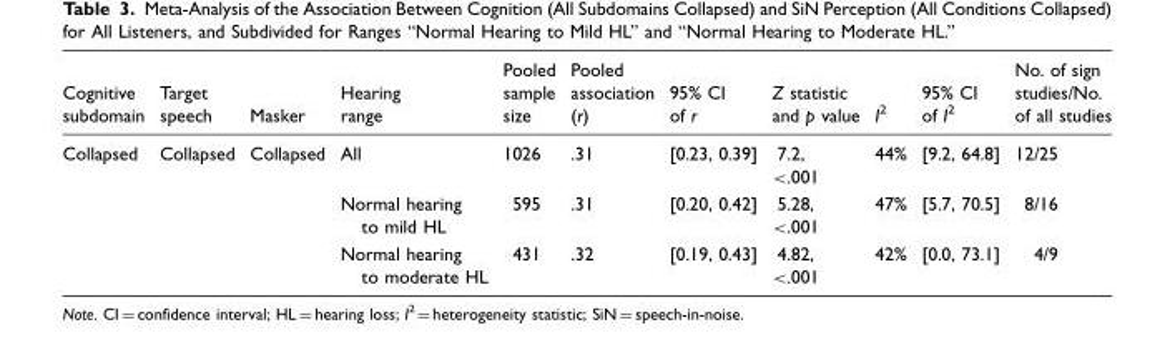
<table><thead><tr><td>Cognitive subdomain</td><td>Target speech</td><td>Masker</td><td>Hearing range</td><td>Pooled sample size</td><td>Pooled association (r)</td><td>95% CI of r</td><td>Z statistic and p value</td><td>I<sup>2</sup></td><td>95% CI of I<sup>2</sup></td><td>No. of sign studies/No. of all studies</td></tr></thead><tbody><tr><td rowspan="3">Collapsed</td><td rowspan="3">Collapsed</td><td rowspan="3">Collapsed</td><td>All</td><td>1026</td><td>.31</td><td>[0.23, 0.39]</td><td>7.2, &lt;.001</td><td>44%</td><td>[9.2, 64.8]</td><td>12/25</td></tr><tr><td>Normal hearing to mild HL</td><td>595</td><td>.31</td><td>[0.20, 0.42]</td><td>5.28, &lt;.001</td><td>47%</td><td>[5.7, 70.5]</td><td>8/16</td></tr><tr><td>Normal hearing to moderate HL</td><td>431</td><td>.32</td><td>[0.19, 0.43]</td><td>4.82, &lt;.001</td><td>42%</td><td>[0.0, 73.1]</td><td>4/9</td></tr></tbody></table>